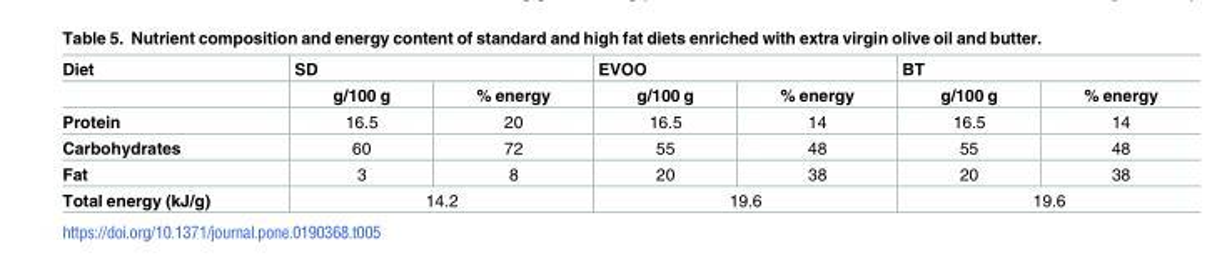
<table><thead><tr><td rowspan="2">Diet</td><td colspan="2">SD</td><td colspan="2">EVOO</td><td colspan="2">BT</td></tr><tr><td>g/100 g</td><td>% energy</td><td>g/100 g</td><td>% energy</td><td>g/100 g</td><td>% energy</td></tr></thead><tbody><tr><td>Protein</td><td>16.5</td><td>20</td><td>16.5</td><td>14</td><td>16.5</td><td>14</td></tr><tr><td>Carbohydrates</td><td>60</td><td>72</td><td>55</td><td>48</td><td>55</td><td>48</td></tr><tr><td>Fat</td><td>3</td><td>8</td><td>20</td><td>38</td><td>20</td><td>38</td></tr><tr><td>Total energy (kJ/g)</td><td colspan="2">14.2</td><td colspan="2">19.6</td><td colspan="2">19.6</td></tr></tbody></table>